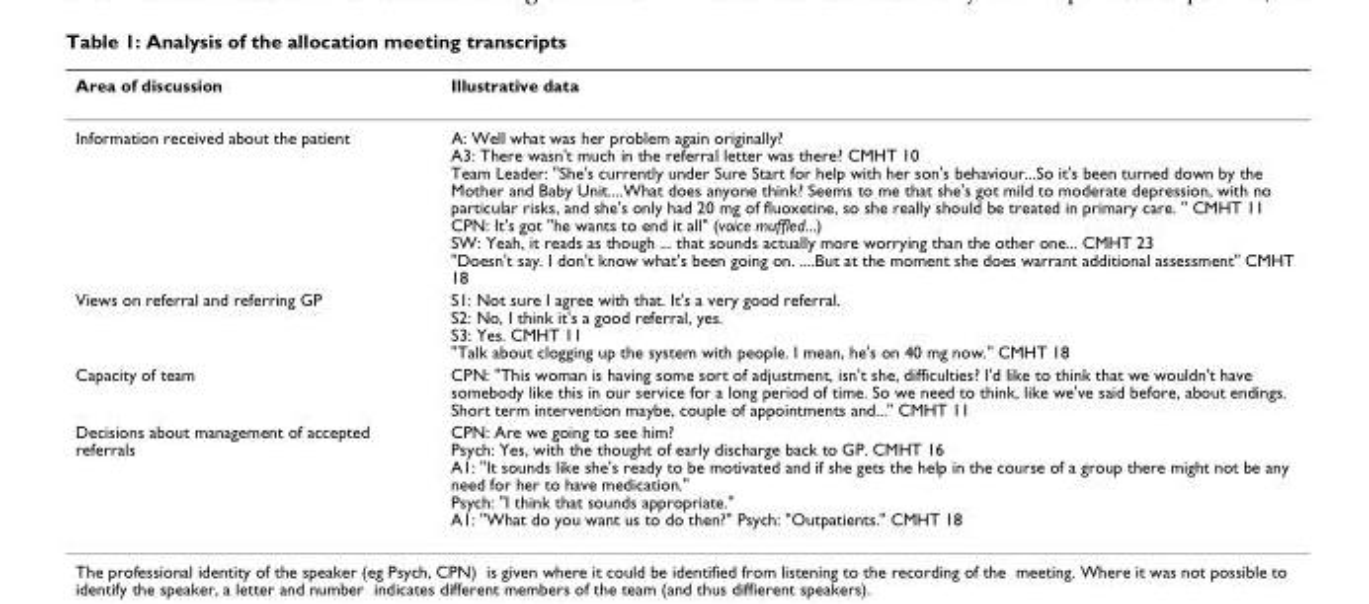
<table><thead><tr><td>Area of discussion</td><td>Illustrative data</td></tr></thead><tbody><tr><td>Information received about the patient</td><td>A: Well what was her problem again originally? A3: There wasn&#x27;t much in the referral letter was there? CMHT 10 Team Leader: &quot;She&#x27;s currently under Sure Start for help with her son&#x27;s behaviour...So it&#x27;s been turned down by the Mother and Baby Unit....What does anyone think? Seems to me that she&#x27;s got mild to moderate depression, with no particular risks, and she&#x27;s only had 20 mg of fluoxetine, so she really should be treated in primary care. &quot; CMHT 11 CPN: It&#x27;s got &quot;he wants to end it all&quot; (voice muffled...) SW: Yeah, it reads as though ... that sounds actually more worrying than the other one... CMHT 23 &quot;Doesn&#x27;t say. I don&#x27;t know what&#x27;s been going on. ....But at the moment she does warrant additional assessment&quot; CMHT 18</td></tr><tr><td>Views on referral and referring GP</td><td>S1: Not sure I agree with that. It&#x27;s a very good referral. S2: No, I think it&#x27;s a good referral, yes. S3: Yes. CMHT 11 &quot;Talk about clogging up the system with people. I mean, he&#x27;s on 40 mg now.&quot; CMHT 18</td></tr><tr><td>Capacity of team</td><td>CPN: &quot;This woman is having some sort of adjustment, isn&#x27;t she, difficulties? I&#x27;d like to think that we wouldn&#x27;t have somebody like this in our service for a long period of time. So we need to think, like we&#x27;ve said before, about endings. Short term intervention maybe, couple of appointments and...&quot; CMHT 11</td></tr><tr><td>Decisions about management of accepted referrals</td><td>CPN: Are we going to see him? Psych: Yes, with the thought of early discharge back to GP. CMHT 16 A1: &quot;It sounds like she&#x27;s ready to be motivated and if she gets the help in the course of a group there might not be any need for her to have medication.&quot; Psych: &quot;I think that sounds appropriate.&quot; A1: &quot;What do you want us to do then?&quot; Psych: &quot;Outpatients.&quot; CMHT 18</td></tr></tbody></table>